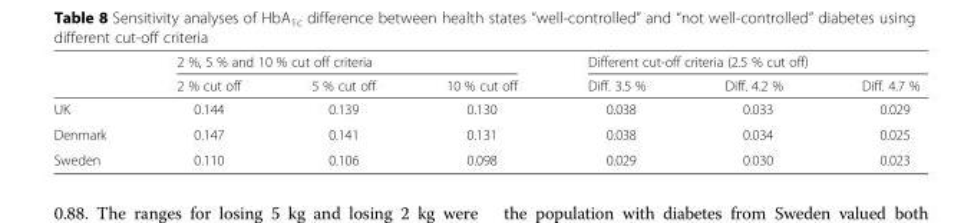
<table><thead><tr><td rowspan="2"></td><td colspan="3">2 %, 5 % and 10 % cut off criteria</td><td colspan="3">Different cut-off criteria (2.5 % cut off)</td></tr><tr><td>2 % cut off</td><td>5 % cut off</td><td>10 % cut off</td><td>Diff. 3.5 %</td><td>Diff. 4.2 %</td><td>Diff. 4.7 %</td></tr></thead><tbody><tr><td>UK</td><td>0.144</td><td>0.139</td><td>0.130</td><td>0.038</td><td>0.033</td><td>0.029</td></tr><tr><td>Denmark</td><td>0.147</td><td>0.141</td><td>0.131</td><td>0.038</td><td>0.034</td><td>0.025</td></tr><tr><td>Sweden</td><td>0.110</td><td>0.106</td><td>0.098</td><td>0.029</td><td>0.030</td><td>0.023</td></tr></tbody></table>